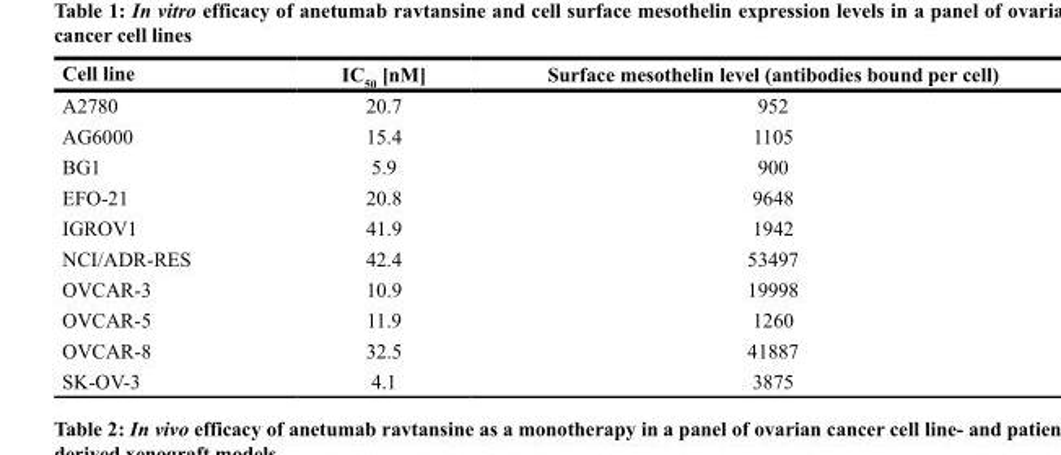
<table><thead><tr><td>Cell line</td><td>IC<sub>50</sub> [nM]</td><td>Surface mesothelin level (antibodies bound per cell)</td></tr></thead><tbody><tr><td>A2780</td><td>20.7</td><td>952</td></tr><tr><td>AG6000</td><td>15.4</td><td>1105</td></tr><tr><td>BG1</td><td>5.9</td><td>900</td></tr><tr><td>EFO-21</td><td>20.8</td><td>9648</td></tr><tr><td>IGROV1</td><td>41.9</td><td>1942</td></tr><tr><td>NCI/ADR-RES</td><td>42.4</td><td>53497</td></tr><tr><td>OVCAR-3</td><td>10.9</td><td>19998</td></tr><tr><td>OVCAR-5</td><td>11.9</td><td>1260</td></tr><tr><td>OVCAR-8</td><td>32.5</td><td>41887</td></tr><tr><td>SK-OV-3</td><td>4.1</td><td>3875</td></tr></tbody></table>